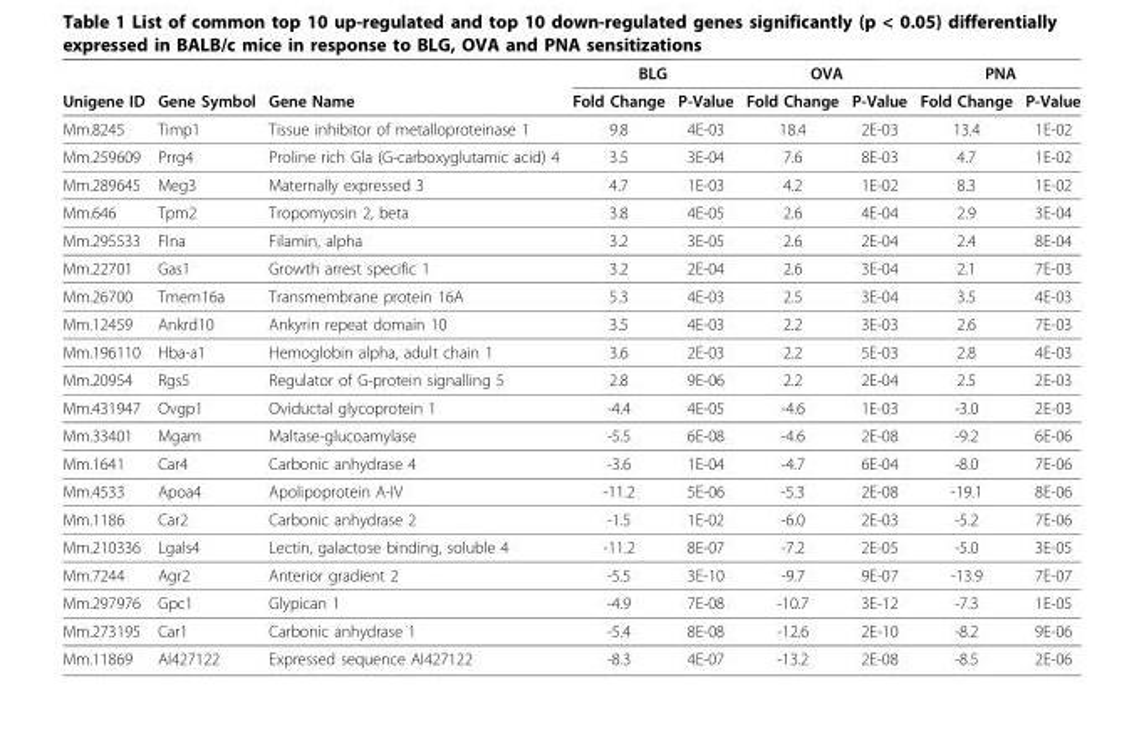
<table><thead><tr><td rowspan="2">Unigene ID</td><td rowspan="2">Gene Symbol</td><td rowspan="2">Gene Name</td><td colspan="2">BLG</td><td colspan="2">OVA</td><td colspan="2">PNA</td></tr><tr><td>Fold Change</td><td>P-Value</td><td>Fold Change</td><td>P-Value</td><td>Fold Change</td><td>P-Value</td></tr></thead><tbody><tr><td>Mm.8245</td><td>Timp1</td><td>Tissue inhibitor of metalloproteinase 1</td><td>9.8</td><td>4E-03</td><td>18.4</td><td>2E-03</td><td>13.4</td><td>1E-02</td></tr><tr><td>Mm.259609</td><td>Prrg4</td><td>Proline rich Gla (G-carboxyglutamic acid) 4</td><td>3.5</td><td>3E-04</td><td>7.6</td><td>8E-03</td><td>4.7</td><td>1E-02</td></tr><tr><td>Mm.289645</td><td>Meg3</td><td>Maternally expressed 3</td><td>4.7</td><td>1E-03</td><td>4.2</td><td>1E-02</td><td>8.3</td><td>1E-02</td></tr><tr><td>Mm.646</td><td>Tpm2</td><td>Tropomyosin 2, beta</td><td>3.8</td><td>4E-05</td><td>2.6</td><td>4E-04</td><td>2.9</td><td>3E-04</td></tr><tr><td>Mm.295533</td><td>Flna</td><td>Filamin, alpha</td><td>3.2</td><td>3E-05</td><td>2.6</td><td>2E-04</td><td>2.4</td><td>8E-04</td></tr><tr><td>Mm.22701</td><td>Gas1</td><td>Growth arrest specific 1</td><td>3.2</td><td>2E-04</td><td>2.6</td><td>3E-04</td><td>2.1</td><td>7E-03</td></tr><tr><td>Mm.26700</td><td>Tmem16a</td><td>Transmembrane protein 16A</td><td>5.3</td><td>4E-03</td><td>2.5</td><td>3E-04</td><td>3.5</td><td>4E-03</td></tr><tr><td>Mm.12459</td><td>Ankrd10</td><td>Ankyrin repeat domain 10</td><td>3.5</td><td>4E-03</td><td>2.2</td><td>3E-03</td><td>2.6</td><td>7E-03</td></tr><tr><td>Mm.196110</td><td>Hba-a1</td><td>Hemoglobin alpha, adult chain 1</td><td>3.6</td><td>2E-03</td><td>2.2</td><td>5E-03</td><td>2.8</td><td>4E-03</td></tr><tr><td>Mm.20954</td><td>Rgs5</td><td>Regulator of G-protein signalling 5</td><td>2.8</td><td>9E-06</td><td>2.2</td><td>2E-04</td><td>2.5</td><td>2E-03</td></tr><tr><td>Mm.431947</td><td>Ovgp1</td><td>Oviductal glycoprotein 1</td><td>-4.4</td><td>4E-05</td><td>-4.6</td><td>1E-03</td><td>-3.0</td><td>2E-03</td></tr><tr><td>Mm.33401</td><td>Mgam</td><td>Maltase-glucoamylase</td><td>-5.5</td><td>6E-08</td><td>-4.6</td><td>2E-08</td><td>-9.2</td><td>6E-06</td></tr><tr><td>Mm.1641</td><td>Car4</td><td>Carbonic anhydrase 4</td><td>-3.6</td><td>1E-04</td><td>-4.7</td><td>6E-04</td><td>-8.0</td><td>7E-06</td></tr><tr><td>Mm.4533</td><td>Apoa4</td><td>Apolipoprotein A-IV</td><td>-11.2</td><td>5E-06</td><td>-5.3</td><td>2E-08</td><td>-19.1</td><td>8E-06</td></tr><tr><td>Mm.1186</td><td>Car2</td><td>Carbonic anhydrase 2</td><td>-1.5</td><td>1E-02</td><td>-6.0</td><td>2E-03</td><td>-5.2</td><td>7E-06</td></tr><tr><td>Mm.210336</td><td>Lgals4</td><td>Lectin, galactose binding, soluble 4</td><td>-11.2</td><td>8E-07</td><td>-7.2</td><td>2E-05</td><td>-5.0</td><td>3E-05</td></tr><tr><td>Mm.7244</td><td>Agr2</td><td>Anterior gradient 2</td><td>-5.5</td><td>3E-10</td><td>-9.7</td><td>9E-07</td><td>-13.9</td><td>7E-07</td></tr><tr><td>Mm.297976</td><td>Gpc1</td><td>Glypican 1</td><td>-4.9</td><td>7E-08</td><td>-10.7</td><td>3E-12</td><td>-7.3</td><td>1E-05</td></tr><tr><td>Mm.273195</td><td>Car1</td><td>Carbonic anhydrase 1</td><td>-5.4</td><td>8E-08</td><td>-12.6</td><td>2E-10</td><td>-8.2</td><td>9E-06</td></tr><tr><td>Mm.11869</td><td>AI427122</td><td>Expressed sequence AI427122</td><td>-8.3</td><td>4E-07</td><td>-13.2</td><td>2E-08</td><td>-8.5</td><td>2E-06</td></tr></tbody></table>